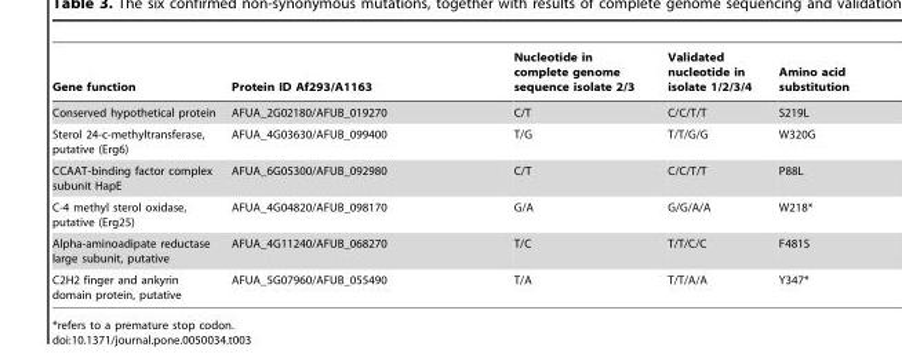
<table><thead><tr><td>Gene function</td><td>Protein ID Af293/A1163</td><td>Nucleotide in complete genome sequence isolate 2/3</td><td>Validated nucleotide in isolate 1/2/3/4</td><td>Amino acid substitution</td></tr></thead><tbody><tr><td>Conserved hypothetical protein</td><td>AFUA_2G02180/AFUB_019270</td><td>C/T</td><td>C/C/T/T</td><td>S219L</td></tr><tr><td>Sterol 24-c-methyltransferase, putative (Erg6)</td><td>AFUA_4G03630/AFUB_099400</td><td>T/G</td><td>T/T/G/G</td><td>W320G</td></tr><tr><td>CCAAT-binding factor complex subunit HapE</td><td>AFUA_6G05300/AFUB_092980</td><td>C/T</td><td>C/C/T/T</td><td>P88L</td></tr><tr><td>C-4 methyl sterol oxidase, putative (Erg25)</td><td>AFUA_4G04820/AFUB_098170</td><td>G/A</td><td>G/G/A/A</td><td>W218*</td></tr><tr><td>Alpha-aminoadipate reductase large subunit, putative</td><td>AFUA_4G11240/AFUB_068270</td><td>T/C</td><td>T/T/C/C</td><td>F481S</td></tr><tr><td>C2H2 finger and ankyrin domain protein, putative</td><td>AFUA_5G07960/AFUB_055490</td><td>T/A</td><td>T/T/A/A</td><td>Y347*</td></tr></tbody></table>